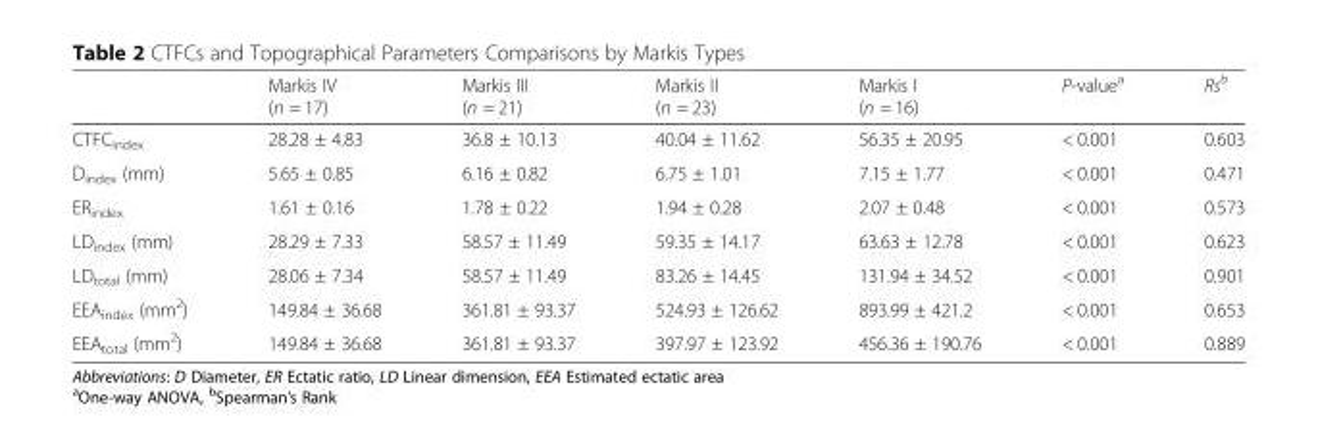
<table><thead><tr><td></td><td>Markis IV (n = 17)</td><td>Markis III (n = 21)</td><td>Markis II (n = 23)</td><td>Markis I (n = 16)</td><td>P-value<sup>a</sup></td><td>Rs<sup>b</sup></td></tr></thead><tbody><tr><td>CTFC<sub>index</sub></td><td>28.28 ± 4.83</td><td>36.8 ± 10.13</td><td>40.04 ± 11.62</td><td>56.35 ± 20.95</td><td>&lt; 0.001</td><td>0.603</td></tr><tr><td>D<sub>index</sub> (mm)</td><td>5.65 ± 0.85</td><td>6.16 ± 0.82</td><td>6.75 ± 1.01</td><td>7.15 ± 1.77</td><td>&lt; 0.001</td><td>0.471</td></tr><tr><td>ER<sub>index</sub></td><td>1.61 ± 0.16</td><td>1.78 ± 0.22</td><td>1.94 ± 0.28</td><td>2.07 ± 0.48</td><td>&lt; 0.001</td><td>0.573</td></tr><tr><td>LD<sub>index</sub> (mm)</td><td>28.29 ± 7.33</td><td>58.57 ± 11.49</td><td>59.35 ± 14.17</td><td>63.63 ± 12.78</td><td>&lt; 0.001</td><td>0.623</td></tr><tr><td>LD<sub>total</sub> (mm)</td><td>28.06 ± 7.34</td><td>58.57 ± 11.49</td><td>83.26 ± 14.45</td><td>131.94 ± 34.52</td><td>&lt; 0.001</td><td>0.901</td></tr><tr><td>EEA<sub>index</sub> (mm<sup>2</sup>)</td><td>149.84 ± 36.68</td><td>361.81 ± 93.37</td><td>524.93 ± 126.62</td><td>893.99 ± 421.2</td><td>&lt; 0.001</td><td>0.653</td></tr><tr><td>EEA<sub>total</sub> (mm<sup>2</sup>)</td><td>149.84 ± 36.68</td><td>361.81 ± 93.37</td><td>397.97 ± 123.92</td><td>456.36 ± 190.76</td><td>&lt; 0.001</td><td>0.889</td></tr></tbody></table>